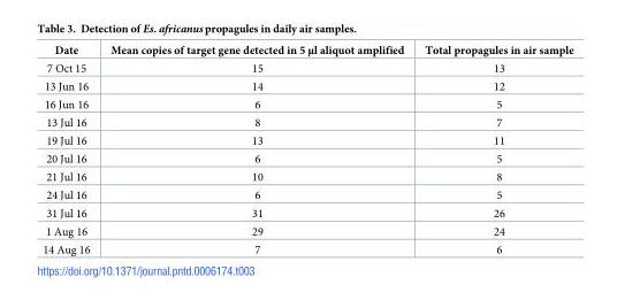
<table><thead><tr><td>Date</td><td>Mean copies of target gene detected in 5 μl aliquot amplified</td><td>Total propagules in air sample</td></tr></thead><tbody><tr><td>7 Oct 15</td><td>15</td><td>13</td></tr><tr><td>13 Jun 16</td><td>14</td><td>12</td></tr><tr><td>16 Jun 16</td><td>6</td><td>5</td></tr><tr><td>13 Jul 16</td><td>8</td><td>7</td></tr><tr><td>19 Jul 16</td><td>13</td><td>11</td></tr><tr><td>20 Jul 16</td><td>6</td><td>5</td></tr><tr><td>21 Jul 16</td><td>10</td><td>8</td></tr><tr><td>24 Jul 16</td><td>6</td><td>5</td></tr><tr><td>31 Jul 16</td><td>31</td><td>26</td></tr><tr><td>1 Aug 16</td><td>29</td><td>24</td></tr><tr><td>14 Aug 16</td><td>7</td><td>6</td></tr></tbody></table>